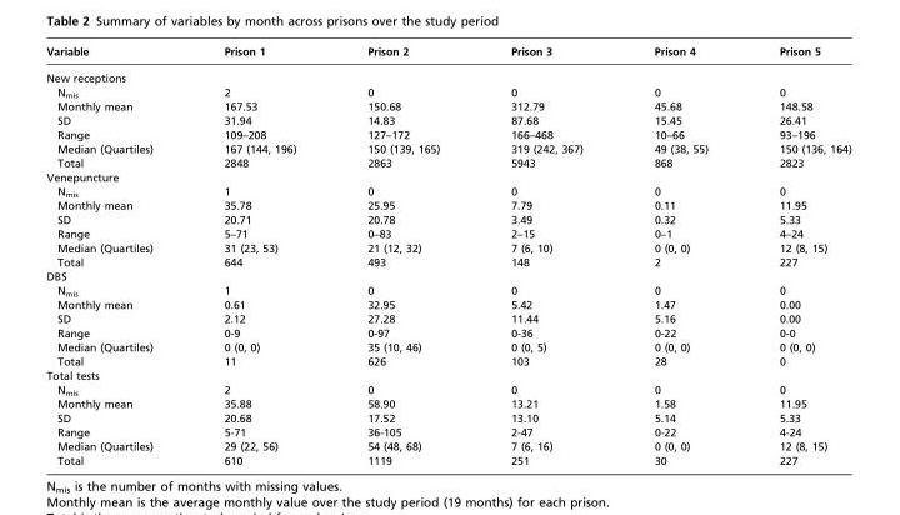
<table><thead><tr><td>Variable</td><td>Prison 1</td><td>Prison 2</td><td>Prison 3</td><td>Prison 4</td><td>Prison 5</td></tr></thead><tbody><tr><td colspan="6">New receptions</td></tr><tr><td>N<sub>mis</sub></td><td>2</td><td>0</td><td>0</td><td>0</td><td>0</td></tr><tr><td>Monthly mean</td><td>167.53</td><td>150.68</td><td>312.79</td><td>45.68</td><td>148.58</td></tr><tr><td>SD</td><td>31.94</td><td>14.83</td><td>87.68</td><td>15.45</td><td>26.41</td></tr><tr><td>Range</td><td>109–208</td><td>127–172</td><td>166–468</td><td>10–66</td><td>93–196</td></tr><tr><td>Median (Quartiles)</td><td>167 (144, 196)</td><td>150 (139, 165)</td><td>319 (242, 367)</td><td>49 (38, 55)</td><td>150 (136, 164)</td></tr><tr><td>Total</td><td>2848</td><td>2863</td><td>5943</td><td>868</td><td>2823</td></tr><tr><td colspan="6">Venepuncture</td></tr><tr><td>N<sub>mis</sub></td><td>1</td><td>0</td><td>0</td><td>0</td><td>0</td></tr><tr><td>Monthly mean</td><td>35.78</td><td>25.95</td><td>7.79</td><td>0.11</td><td>11.95</td></tr><tr><td>SD</td><td>20.71</td><td>20.78</td><td>3.49</td><td>0.32</td><td>5.33</td></tr><tr><td>Range</td><td>5–71</td><td>0–83</td><td>2–15</td><td>0–1</td><td>4–24</td></tr><tr><td>Median (Quartiles)</td><td>31 (23, 53)</td><td>21 (12, 32)</td><td>7 (6, 10)</td><td>0 (0, 0)</td><td>12 (8, 15)</td></tr><tr><td>Total</td><td>644</td><td>493</td><td>148</td><td>2</td><td>227</td></tr><tr><td colspan="6">DBS</td></tr><tr><td>N<sub>mis</sub></td><td>1</td><td>0</td><td>0</td><td>0</td><td>0</td></tr><tr><td>Monthly mean</td><td>0.61</td><td>32.95</td><td>5.42</td><td>1.47</td><td>0.00</td></tr><tr><td>SD</td><td>2.12</td><td>27.28</td><td>11.44</td><td>5.16</td><td>0.00</td></tr><tr><td>Range</td><td>0-9</td><td>0-97</td><td>0-36</td><td>0-22</td><td>0-0</td></tr><tr><td>Median (Quartiles)</td><td>0 (0, 0)</td><td>35 (10, 46)</td><td>0 (0, 5)</td><td>0 (0, 0)</td><td>0 (0, 0)</td></tr><tr><td>Total</td><td>11</td><td>626</td><td>103</td><td>28</td><td>0</td></tr><tr><td colspan="6">Total tests</td></tr><tr><td>N<sub>mis</sub></td><td>2</td><td>0</td><td>0</td><td>0</td><td>0</td></tr><tr><td>Monthly mean</td><td>35.88</td><td>58.90</td><td>13.21</td><td>1.58</td><td>11.95</td></tr><tr><td>SD</td><td>20.68</td><td>17.52</td><td>13.10</td><td>5.14</td><td>5.33</td></tr><tr><td>Range</td><td>5-71</td><td>36-105</td><td>2-47</td><td>0-22</td><td>4-24</td></tr><tr><td>Median (Quartiles)</td><td>29 (22, 56)</td><td>54 (48, 68)</td><td>7 (6, 16)</td><td>0 (0, 0)</td><td>12 (8, 15)</td></tr><tr><td>Total</td><td>610</td><td>1119</td><td>251</td><td>30</td><td>227</td></tr></tbody></table>